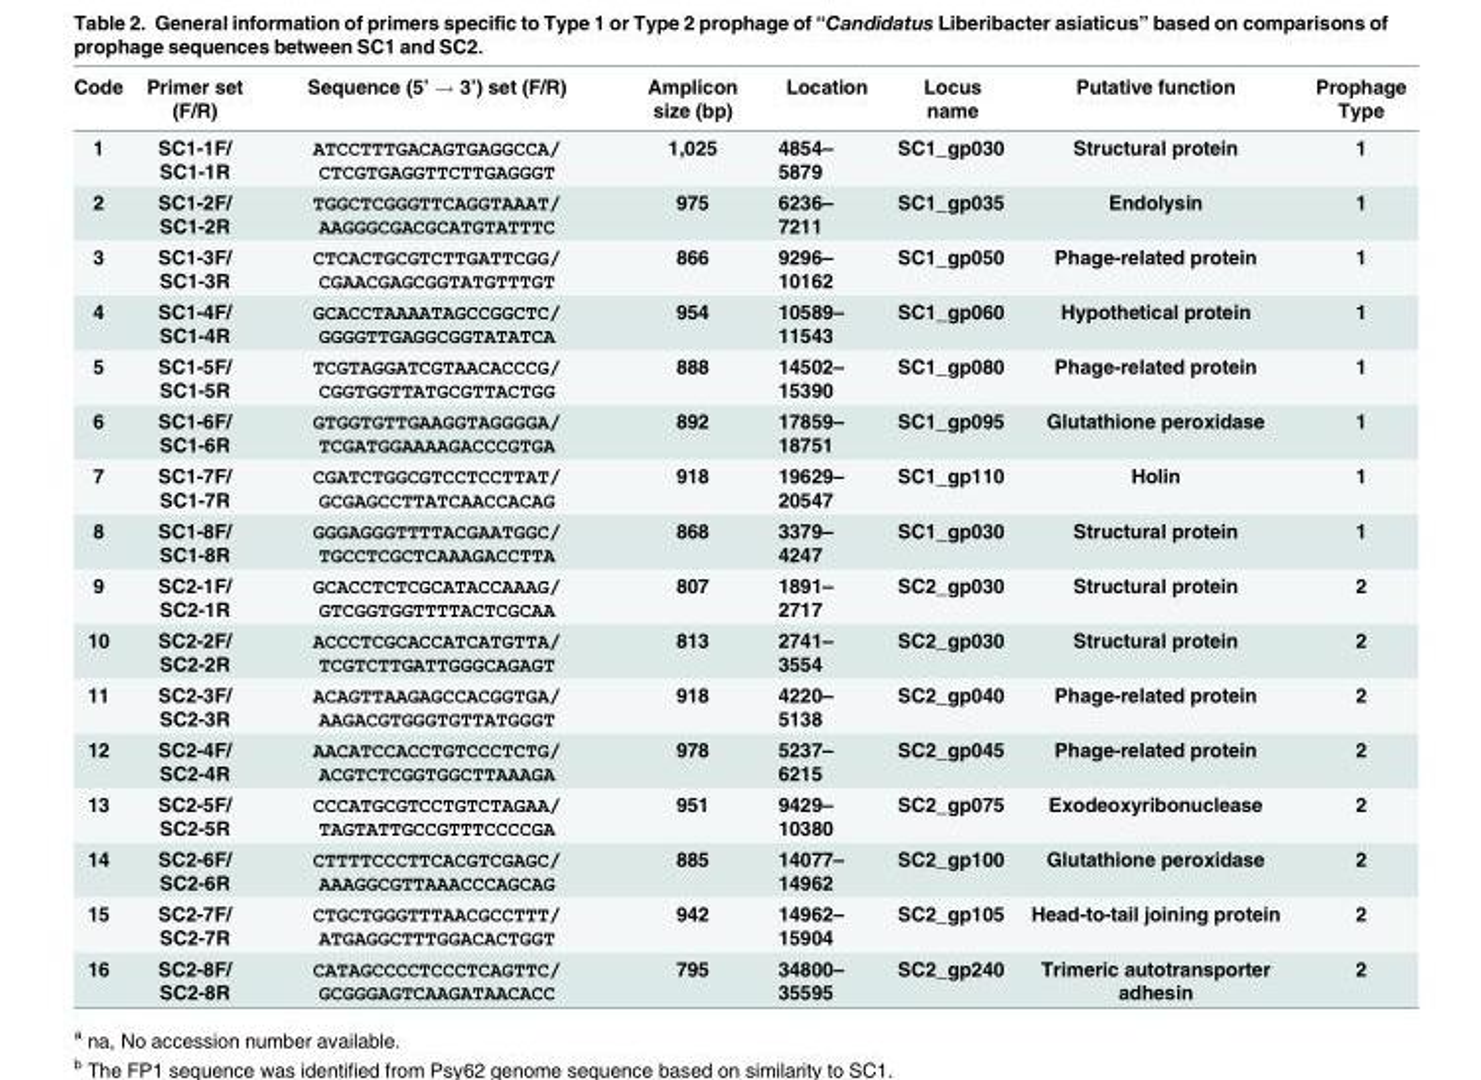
<table><thead><tr><td>Code</td><td>Primer set (F/R)</td><td>Sequence (5’ → 3’) set (F/R)</td><td>Amplicon size (bp)</td><td>Location</td><td>Locus name</td><td>Putative function</td><td>Prophage Type</td></tr></thead><tbody><tr><td>1</td><td>SC1-1F/ SC1-1R</td><td>ATCCTTTGACAGTGAGGCCA/ CTCGTGAGGTTCTTGAGGGT</td><td>1,025</td><td>4854– 5879</td><td>SC1_gp030</td><td>Structural protein</td><td>1</td></tr><tr><td>2</td><td>SC1-2F/ SC1-2R</td><td>TGGCTCGGGTTCAGGTAAAT/ AAGGGCGACGCATGTATTTC</td><td>975</td><td>6236– 7211</td><td>SC1_gp035</td><td>Endolysin</td><td>1</td></tr><tr><td>3</td><td>SC1-3F/ SC1-3R</td><td>CTCACTGCGTCTTGATTCGG/ CGAACGAGCGGTATGTTTGT</td><td>866</td><td>9296– 10162</td><td>SC1_gp050</td><td>Phage-related protein</td><td>1</td></tr><tr><td>4</td><td>SC1-4F/ SC1-4R</td><td>GCACCTAAAATAGCCGGCTC/ GGGGTTGAGGCGGTATATCA</td><td>954</td><td>10589– 11543</td><td>SC1_gp060</td><td>Hypothetical protein</td><td>1</td></tr><tr><td>5</td><td>SC1-5F/ SC1-5R</td><td>TCGTAGGATCGTAACACCCG/ CGGTGGTTATGCGTTACTGG</td><td>888</td><td>14502– 15390</td><td>SC1_gp080</td><td>Phage-related protein</td><td>1</td></tr><tr><td>6</td><td>SC1-6F/ SC1-6R</td><td>GTGGTGTTGAAGGTAGGGGA/ TCGATGGAAAAGACCCGTGA</td><td>892</td><td>17859– 18751</td><td>SC1_gp095</td><td>Glutathione peroxidase</td><td>1</td></tr><tr><td>7</td><td>SC1-7F/ SC1-7R</td><td>CGATCTGGCGTCCTCCTTAT/ GCGAGCCTTATCAACCACAG</td><td>918</td><td>19629– 20547</td><td>SC1_gp110</td><td>Holin</td><td>1</td></tr><tr><td>8</td><td>SC1-8F/ SC1-8R</td><td>GGGAGGGTTTTACGAATGGC/ TGCCTCGCTCAAAGACCTTA</td><td>868</td><td>3379– 4247</td><td>SC1_gp030</td><td>Structural protein</td><td>1</td></tr><tr><td>9</td><td>SC2-1F/ SC2-1R</td><td>GCACCTCTCGCATACCAAAG/ GTCGGTGGTTTTACTCGCAA</td><td>807</td><td>1891– 2717</td><td>SC2_gp030</td><td>Structural protein</td><td>2</td></tr><tr><td>10</td><td>SC2-2F/ SC2-2R</td><td>ACCCTCGCACCATCATGTTA/ TCGTCTTGATTGGGCAGAGT</td><td>813</td><td>2741– 3554</td><td>SC2_gp030</td><td>Structural protein</td><td>2</td></tr><tr><td>11</td><td>SC2-3F/ SC2-3R</td><td>ACAGTTAAGAGCCACGGTGA/ AAGACGTGGGTGTTATGGGT</td><td>918</td><td>4220– 5138</td><td>SC2_gp040</td><td>Phage-related protein</td><td>2</td></tr><tr><td>12</td><td>SC2-4F/ SC2-4R</td><td>AACATCCACCTGTCCCTCTG/ ACGTCTCGGTGGCTTAAAGA</td><td>978</td><td>5237– 6215</td><td>SC2_gp045</td><td>Phage-related protein</td><td>2</td></tr><tr><td>13</td><td>SC2-5F/ SC2-5R</td><td>CCCATGCGTCCTGTCTAGAA/ TAGTATTGCCGTTTCCCCGA</td><td>951</td><td>9429– 10380</td><td>SC2_gp075</td><td>Exodeoxyribonuclease</td><td>2</td></tr><tr><td>14</td><td>SC2-6F/ SC2-6R</td><td>CTTTTCCCTTCACGTCGAGC/ AAAGGCGTTAAACCCAGCAG</td><td>885</td><td>14077– 14962</td><td>SC2_gp100</td><td>Glutathione peroxidase</td><td>2</td></tr><tr><td>15</td><td>SC2-7F/ SC2-7R</td><td>CTGCTGGGTTTAACGCCTTT/ ATGAGGCTTTGGACACTGGT</td><td>942</td><td>14962– 15904</td><td>SC2_gp105</td><td>Head-to-tail joining protein</td><td>2</td></tr><tr><td>16</td><td>SC2-8F/ SC2-8R</td><td>CATAGCCCCTCCCTCAGTTC/ GCGGGAGTCAAGATAACACC</td><td>795</td><td>34800– 35595</td><td>SC2_gp240</td><td>Trimeric autotransporter adhesin</td><td>2</td></tr></tbody></table>